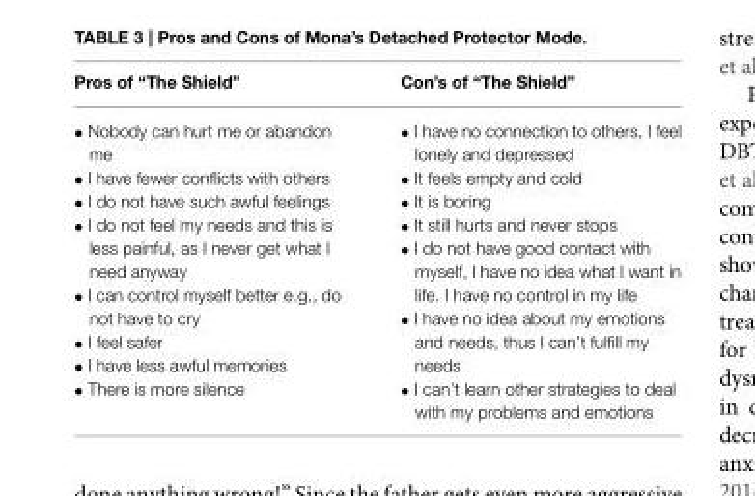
<table><thead><tr><td>Pros of “The Shield”</td><td>Con’s of “The Shield”</td></tr></thead><tbody><tr><td>• Nobody can hurt me or abandon me • I have fewer conflicts with others • I do not have such awful feelings • I do not feel my needs and this is less painful, as I never get what I need anyway • I can control myself better e.g., do not have to cry • I feel safer • I have less awful memories • There is more silence</td><td>• I have no connection to others, I feel lonely and depressed • It feels empty and cold • It is boring • It still hurts and never stops • I do not have good contact with myself, I have no idea what I want in life. I have no control in my life • I have no idea about my emotions and needs, thus I can’t fulfill my needs • I can’t learn other strategies to deal with my problems and emotions</td></tr></tbody></table>